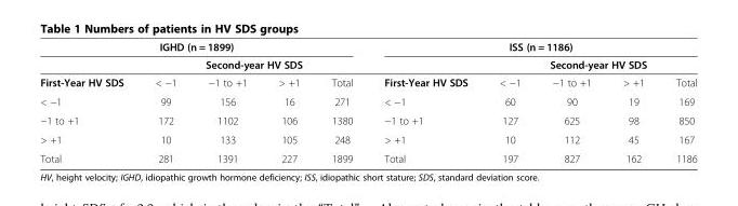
<table><thead><tr><td colspan="5">IGHD (n = 1899)</td><td colspan="5">ISS (n = 1186)</td></tr><tr><td rowspan="2">First-Year HV SDS</td><td colspan="4">Second-year HV SDS</td><td rowspan="2">First-Year HV SDS</td><td colspan="4">Second-year HV SDS</td></tr><tr><td>&lt; −1</td><td>−1 to +1</td><td>&gt; +1</td><td>Total</td><td>&lt; −1</td><td>−1 to +1</td><td>&gt; +1</td><td>Total</td></tr></thead><tbody><tr><td>&lt; −1</td><td>99</td><td>156</td><td>16</td><td>271</td><td>&lt; −1</td><td>60</td><td>90</td><td>19</td><td>169</td></tr><tr><td>−1 to +1</td><td>172</td><td>1102</td><td>106</td><td>1380</td><td>−1 to +1</td><td>127</td><td>625</td><td>98</td><td>850</td></tr><tr><td>&gt; +1</td><td>10</td><td>133</td><td>105</td><td>248</td><td>&gt; +1</td><td>10</td><td>112</td><td>45</td><td>167</td></tr><tr><td>Total</td><td>281</td><td>1391</td><td>227</td><td>1899</td><td>Total</td><td>197</td><td>827</td><td>162</td><td>1186</td></tr></tbody></table>